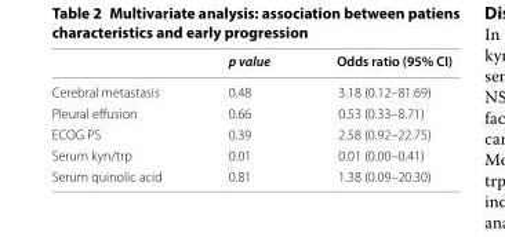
<table><thead><tr><td></td><td>p value</td><td>Odds ratio (95% CI)</td></tr></thead><tbody><tr><td>Cerebral metastasis</td><td>0.48</td><td>3.18 (0.12–81.69)</td></tr><tr><td>Pleural effusion</td><td>0.66</td><td>0.53 (0.33–8.71)</td></tr><tr><td>ECOG PS</td><td>0.39</td><td>2.58 (0.92–22.75)</td></tr><tr><td>Serum kyn/trp</td><td>0.01</td><td>0.01 (0.00–0.41)</td></tr><tr><td>Serum quinolic acid</td><td>0.81</td><td>1.38 (0.09–20.30)</td></tr></tbody></table>